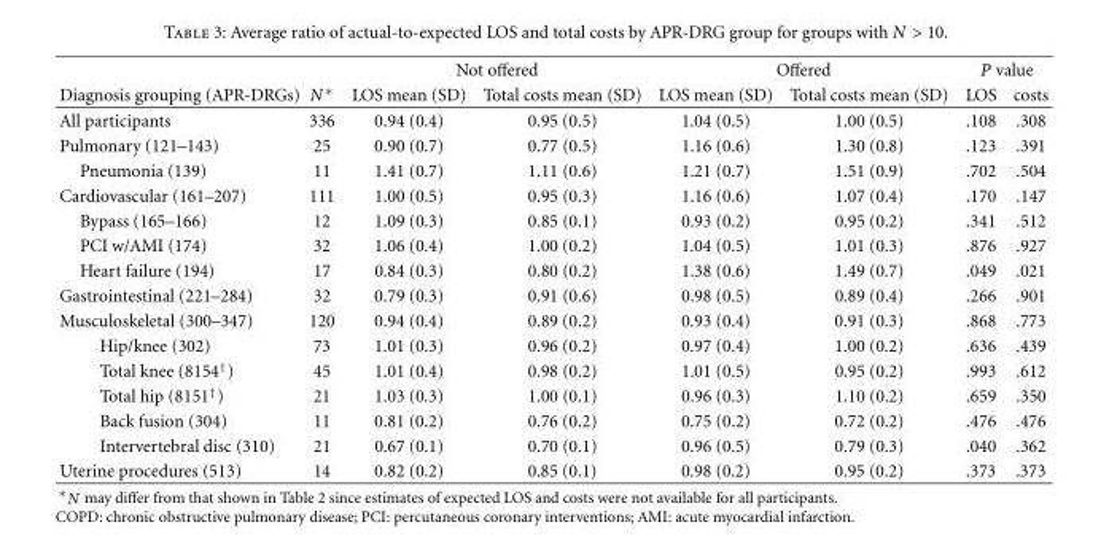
<table><thead><tr><td rowspan="2">Diagnosis grouping (APR-DRGs)</td><td rowspan="2">N ∗</td><td colspan="2">Not offered</td><td colspan="2">Offered</td><td colspan="2">P value</td></tr><tr><td>LOS mean (SD)</td><td>Total costs mean (SD)</td><td>LOS mean (SD)</td><td>Total costs mean (SD)</td><td>LOS</td><td>costs</td></tr></thead><tbody><tr><td>All participants</td><td>336</td><td>0.94 (0.4)</td><td>0.95 (0.5)</td><td>1.04 (0.5)</td><td>1.00 (0.5)</td><td>.108</td><td>.308</td></tr><tr><td>Pulmonary (121–143)</td><td>25</td><td>0.90 (0.7)</td><td>0.77 (0.5)</td><td>1.16 (0.6)</td><td>1.30 (0.8)</td><td>.123</td><td>.391</td></tr><tr><td>Pneumonia (139)</td><td>11</td><td>1.41 (0.7)</td><td>1.11 (0.6)</td><td>1.21 (0.7)</td><td>1.51 (0.9)</td><td>.702</td><td>.504</td></tr><tr><td>Cardiovascular (161–207)</td><td>111</td><td>1.00 (0.5)</td><td>0.95 (0.3)</td><td>1.16 (0.6)</td><td>1.07 (0.4)</td><td>.170</td><td>.147</td></tr><tr><td>Bypass (165–166)</td><td>12</td><td>1.09 (0.3)</td><td>0.85 (0.1)</td><td>0.93 (0.2)</td><td>0.95 (0.2)</td><td>.341</td><td>.512</td></tr><tr><td>PCI w/AMI (174)</td><td>32</td><td>1.06 (0.4)</td><td>1.00 (0.2)</td><td>1.04 (0.5)</td><td>1.01 (0.3)</td><td>.876</td><td>.927</td></tr><tr><td>Heart failure (194)</td><td>17</td><td>0.84 (0.3)</td><td>0.80 (0.2)</td><td>1.38 (0.6)</td><td>1.49 (0.7)</td><td>.049</td><td>.021</td></tr><tr><td>Gastrointestinal (221–284)</td><td>32</td><td>0.79 (0.3)</td><td>0.91 (0.6)</td><td>0.98 (0.5)</td><td>0.89 (0.4)</td><td>.266</td><td>.901</td></tr><tr><td>Musculoskeletal (300–347)</td><td>120</td><td>0.94 (0.4)</td><td>0.89 (0.2)</td><td>0.93 (0.4)</td><td>0.91 (0.3)</td><td>.868</td><td>.773</td></tr><tr><td>Hip/knee (302)</td><td>73</td><td>1.01 (0.3)</td><td>0.96 (0.2)</td><td>0.97 (0.4)</td><td>1.00 (0.2)</td><td>.636</td><td>.439</td></tr><tr><td>Total knee (8154<sup>†</sup>)</td><td>45</td><td>1.01 (0.4)</td><td>0.98 (0.2)</td><td>1.01 (0.5)</td><td>0.95 (0.2)</td><td>.993</td><td>.612</td></tr><tr><td>Total hip (8151<sup>†</sup>)</td><td>21</td><td>1.03 (0.3)</td><td>1.00 (0.1)</td><td>0.96 (0.3)</td><td>1.10 (0.2)</td><td>.659</td><td>.350</td></tr><tr><td>Back fusion (304)</td><td>11</td><td>0.81 (0.2)</td><td>0.76 (0.2)</td><td>0.75 (0.2)</td><td>0.72 (0.2)</td><td>.476</td><td>.476</td></tr><tr><td>Intervertebral disc (310)</td><td>21</td><td>0.67 (0.1)</td><td>0.70 (0.1)</td><td>0.96 (0.5)</td><td>0.79 (0.3)</td><td>.040</td><td>.362</td></tr><tr><td>Uterine procedures (513)</td><td>14</td><td>0.82 (0.2)</td><td>0.85 (0.1)</td><td>0.98 (0.2)</td><td>0.95 (0.2)</td><td>.373</td><td>.373</td></tr></tbody></table>